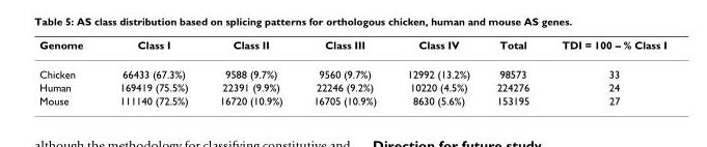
<table><thead><tr><td>Genome</td><td>Class I</td><td>Class II</td><td>Class III</td><td>Class IV</td><td>Total</td><td>TDI = 100 – % Class I</td></tr></thead><tbody><tr><td>Chicken</td><td>66433 (67.3%)</td><td>9588 (9.7%)</td><td>9560 (9.7%)</td><td>12992 (13.2%)</td><td>98573</td><td>33</td></tr><tr><td>Human</td><td>169419 (75.5%)</td><td>22391 (9.9%)</td><td>22246 (9.2%)</td><td>10220 (4.5%)</td><td>224276</td><td>24</td></tr><tr><td>Mouse</td><td>111140 (72.5%)</td><td>16720 (10.9%)</td><td>16705 (10.9%)</td><td>8630 (5.6%)</td><td>153195</td><td>27</td></tr></tbody></table>